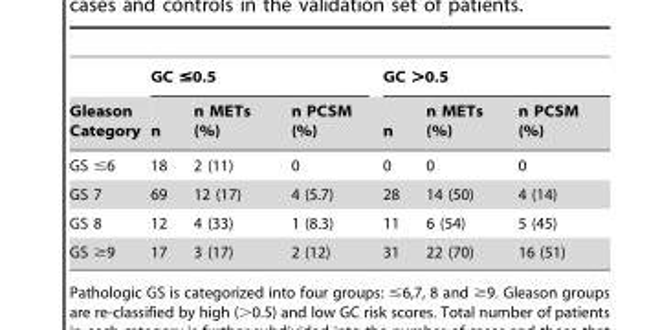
<table><thead><tr><td rowspan="2">Gleason Category</td><td colspan="3">GC ≤0.5</td><td colspan="3">GC &gt;0.5</td></tr><tr><td>n</td><td>n METs (%)</td><td>n PCSM (%)</td><td>n</td><td>n METs (%)</td><td>n PCSM (%)</td></tr></thead><tbody><tr><td>GS ≤6</td><td>18</td><td>2 (11)</td><td>0</td><td>0</td><td>0</td><td>0</td></tr><tr><td>GS 7</td><td>69</td><td>12 (17)</td><td>4 (5.7)</td><td>28</td><td>14 (50)</td><td>4 (14)</td></tr><tr><td>GS 8</td><td>12</td><td>4 (33)</td><td>1 (8.3)</td><td>11</td><td>6 (54)</td><td>5 (45)</td></tr><tr><td>GS ≥9</td><td>17</td><td>3 (17)</td><td>2 (12)</td><td>31</td><td>22 (70)</td><td>16 (51)</td></tr></tbody></table>